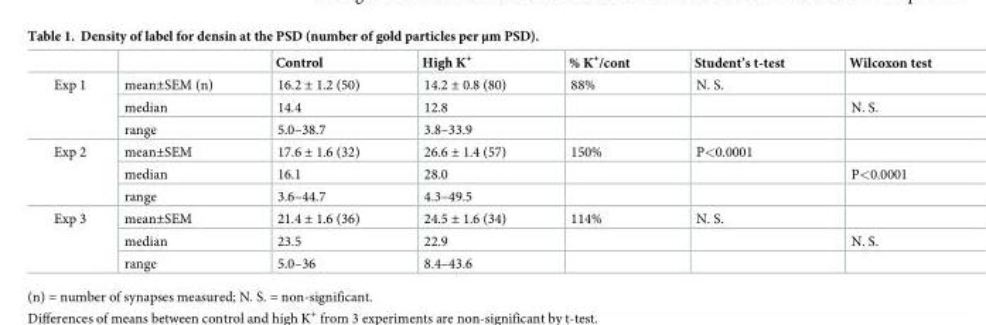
<table><thead><tr><td></td><td></td><td>Control</td><td>High K<sup>+</sup></td><td>% K<sup>+</sup>/cont</td><td>Student’s t-test</td><td>Wilcoxon test</td></tr></thead><tbody><tr><td rowspan="3">Exp 1</td><td>mean±SEM (n)</td><td>16.2 ± 1.2 (50)</td><td>14.2 ± 0.8 (80)</td><td>88%</td><td>N. S.</td><td></td></tr><tr><td>median</td><td>14.4</td><td>12.8</td><td></td><td></td><td>N. S.</td></tr><tr><td>range</td><td>5.0–38.7</td><td>3.8–33.9</td><td></td><td></td><td></td></tr><tr><td rowspan="3">Exp 2</td><td>mean±SEM</td><td>17.6 ± 1.6 (32)</td><td>26.6 ± 1.4 (57)</td><td>150%</td><td>P&lt;0.0001</td><td></td></tr><tr><td>median</td><td>16.1</td><td>28.0</td><td></td><td></td><td>P&lt;0.0001</td></tr><tr><td>range</td><td>3.6–44.7</td><td>4.3–49.5</td><td></td><td></td><td></td></tr><tr><td rowspan="3">Exp 3</td><td>mean±SEM</td><td>21.4 ± 1.6 (36)</td><td>24.5 ± 1.6 (34)</td><td>114%</td><td>N. S.</td><td></td></tr><tr><td>median</td><td>23.5</td><td>22.9</td><td></td><td></td><td>N. S.</td></tr><tr><td>range</td><td>5.0–36</td><td>8.4–43.6</td><td></td><td></td><td></td></tr></tbody></table>